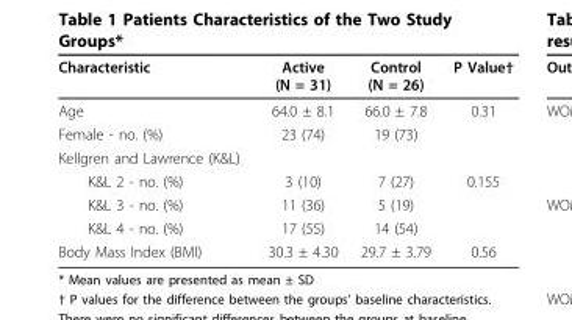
<table><thead><tr><td>Characteristic</td><td>Active (N = 31)</td><td>Control (N = 26)</td><td>P Value†</td></tr></thead><tbody><tr><td>Age</td><td>64.0 ± 8.1</td><td>66.0 ± 7.8</td><td>0.31</td></tr><tr><td>Female - no. (%)</td><td>23 (74)</td><td>19 (73)</td><td></td></tr><tr><td colspan="4">Kellgren and Lawrence (K&amp;L)</td></tr><tr><td>K&amp;L 2 - no. (%)</td><td>3 (10)</td><td>7 (27)</td><td>0.155</td></tr><tr><td>K&amp;L 3 - no. (%)</td><td>11 (36)</td><td>5 (19)</td><td></td></tr><tr><td>K&amp;L 4 - no. (%)</td><td>17 (55)</td><td>14 (54)</td><td></td></tr><tr><td>Body Mass Index (BMI)</td><td>30.3 ± 4.30</td><td>29.7 ± 3.79</td><td>0.56</td></tr></tbody></table>